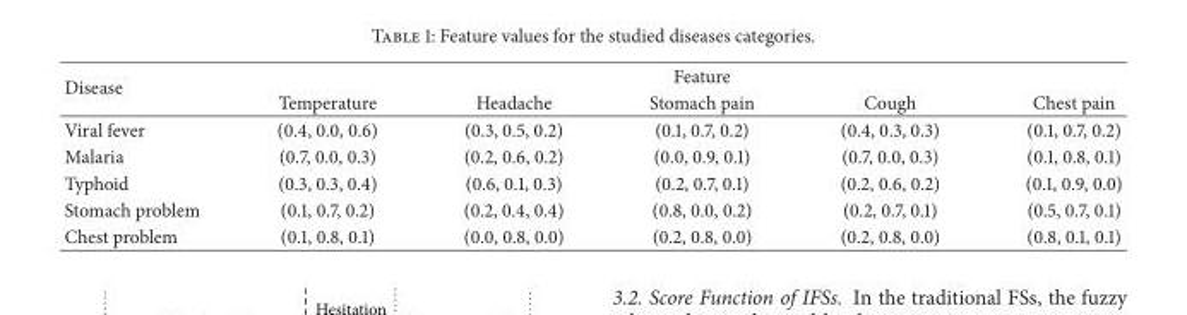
<table><thead><tr><td rowspan="2">Disease</td><td colspan="5">Feature</td></tr><tr><td>Temperature</td><td>Headache</td><td>Stomach pain</td><td>Cough</td><td>Chest pain</td></tr></thead><tbody><tr><td>Viral fever</td><td>(0.4, 0.0, 0.6)</td><td>(0.3, 0.5, 0.2)</td><td>(0.1, 0.7, 0.2)</td><td>(0.4, 0.3, 0.3)</td><td>(0.1, 0.7, 0.2)</td></tr><tr><td>Malaria</td><td>(0.7, 0.0, 0.3)</td><td>(0.2, 0.6, 0.2)</td><td>(0.0, 0.9, 0.1)</td><td>(0.7, 0.0, 0.3)</td><td>(0.1, 0.8, 0.1)</td></tr><tr><td>Typhoid</td><td>(0.3, 0.3, 0.4)</td><td>(0.6, 0.1, 0.3)</td><td>(0.2, 0.7, 0.1)</td><td>(0.2, 0.6, 0.2)</td><td>(0.1, 0.9, 0.0)</td></tr><tr><td>Stomach problem</td><td>(0.1, 0.7, 0.2)</td><td>(0.2, 0.4, 0.4)</td><td>(0.8, 0.0, 0.2)</td><td>(0.2, 0.7, 0.1)</td><td>(0.5, 0.7, 0.1)</td></tr><tr><td>Chest problem</td><td>(0.1, 0.8, 0.1)</td><td>(0.0, 0.8, 0.0)</td><td>(0.2, 0.8, 0.0)</td><td>(0.2, 0.8, 0.0)</td><td>(0.8, 0.1, 0.1)</td></tr></tbody></table>